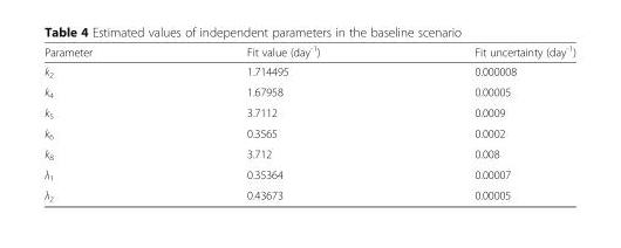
<table><thead><tr><td>Parameter</td><td>Fit value (day<sup>-1</sup>)</td><td>Fit uncertainty (day<sup>-1</sup>)</td></tr></thead><tbody><tr><td>k<sub>2</sub></td><td>1.714495</td><td>0.000008</td></tr><tr><td>k<sub>4</sub></td><td>1.67958</td><td>0.00005</td></tr><tr><td>k<sub>5</sub></td><td>3.7112</td><td>0.0009</td></tr><tr><td>k<sub>6</sub></td><td>0.3565</td><td>0.0002</td></tr><tr><td>k<sub>8</sub></td><td>3.712</td><td>0.008</td></tr><tr><td>λ<sub>1</sub></td><td>0.35364</td><td>0.00007</td></tr><tr><td>λ<sub>2</sub></td><td>0.43673</td><td>0.00005</td></tr></tbody></table>